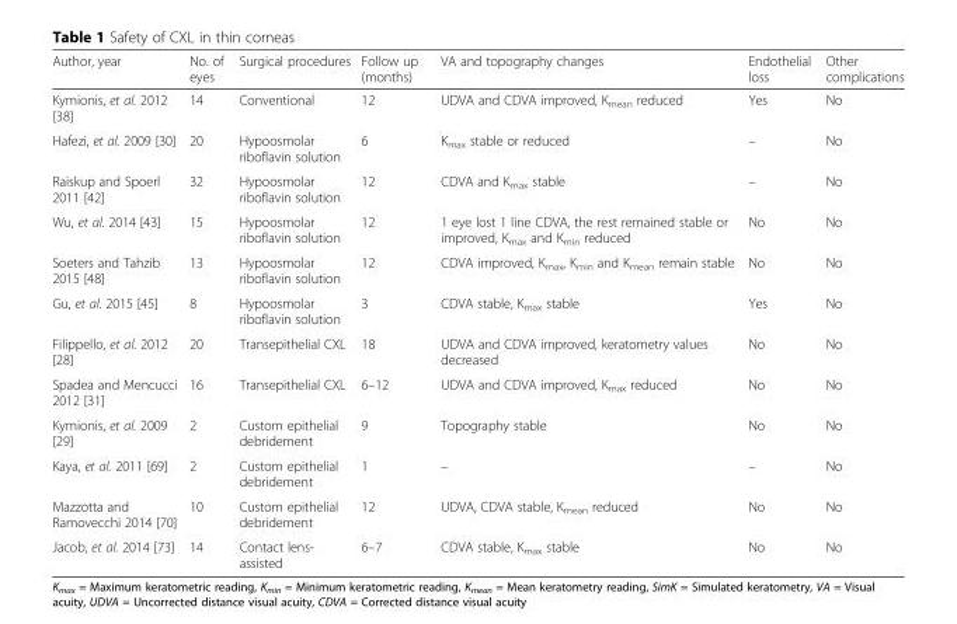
<table><thead><tr><td>Author, year</td><td>No. of eyes</td><td>Surgical procedures</td><td>Follow up (months)</td><td>VA and topography changes</td><td>Endothelial loss</td><td>Other complications</td></tr></thead><tbody><tr><td>Kymionis, et al. 2012 [38]</td><td>14</td><td>Conventional</td><td>12</td><td>UDVA and CDVA improved, K<sub>mean</sub> reduced</td><td>Yes</td><td>No</td></tr><tr><td>Hafezi, et al. 2009 [30]</td><td>20</td><td>Hypoosmolar riboflavin solution</td><td>6</td><td>K<sub>max</sub> stable or reduced</td><td>–</td><td>No</td></tr><tr><td>Raiskup and Spoerl 2011 [42]</td><td>32</td><td>Hypoosmolar riboflavin solution</td><td>12</td><td>CDVA and K<sub>max</sub> stable</td><td>–</td><td>No</td></tr><tr><td>Wu, et al. 2014 [43]</td><td>15</td><td>Hypoosmolar riboflavin solution</td><td>12</td><td>1 eye lost 1 line CDVA, the rest remained stable or improved, K<sub>max</sub> and K<sub>min</sub> reduced</td><td>No</td><td>No</td></tr><tr><td>Soeters and Tahzib 2015 [48]</td><td>13</td><td>Hypoosmolar riboflavin solution</td><td>12</td><td>CDVA improved, K<sub>max</sub>, K<sub>min</sub> and K<sub>mean</sub> remain stable</td><td>No</td><td>No</td></tr><tr><td>Gu, et al. 2015 [45]</td><td>8</td><td>Hypoosmolar riboflavin solution</td><td>3</td><td>CDVA stable, K<sub>max</sub> stable</td><td>Yes</td><td>No</td></tr><tr><td>Filippello, et al. 2012 [28]</td><td>20</td><td>Transepithelial CXL</td><td>18</td><td>UDVA and CDVA improved, keratometry values decreased</td><td>No</td><td>No</td></tr><tr><td>Spadea and Mencucci 2012 [31]</td><td>16</td><td>Transepithelial CXL</td><td>6–12</td><td>UDVA and CDVA improved, K<sub>max</sub> reduced</td><td>No</td><td>No</td></tr><tr><td>Kymionis, et al. 2009 [29]</td><td>2</td><td>Custom epithelial debridement</td><td>9</td><td>Topography stable</td><td>No</td><td>No</td></tr><tr><td>Kaya, et al. 2011 [69]</td><td>2</td><td>Custom epithelial debridement</td><td>1</td><td>–</td><td>–</td><td>No</td></tr><tr><td>Mazzotta and Ramovecchi 2014 [70]</td><td>10</td><td>Custom epithelial debridement</td><td>12</td><td>UDVA, CDVA stable, K<sub>mean</sub> reduced</td><td>No</td><td>No</td></tr><tr><td>Jacob, et al. 2014 [73]</td><td>14</td><td>Contact lens- assisted</td><td>6–7</td><td>CDVA stable, K<sub>max</sub> stable</td><td>No</td><td>No</td></tr></tbody></table>